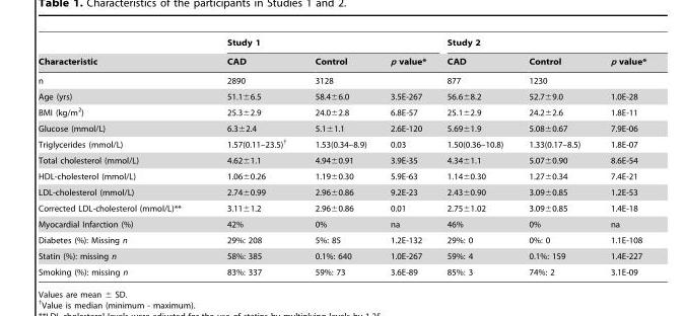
<table><thead><tr><td rowspan="2">Characteristic</td><td colspan="3">Study 1</td><td colspan="3">Study 2</td></tr><tr><td>CAD</td><td>Control</td><td>p value*</td><td>CAD</td><td>Control</td><td>p value*</td></tr></thead><tbody><tr><td>n</td><td>2890</td><td>3128</td><td></td><td>877</td><td>1230</td><td></td></tr><tr><td>Age (yrs)</td><td>51.1±6.5</td><td>58.4±6.0</td><td>3.5E-267</td><td>56.6±8.2</td><td>52.7±9.0</td><td>1.0E-28</td></tr><tr><td>BMI (kg/m<sup>2</sup>)</td><td>25.3±2.9</td><td>24.0±2.8</td><td>6.8E-57</td><td>25.1±2.9</td><td>24.2±2.6</td><td>1.8E-11</td></tr><tr><td>Glucose (mmol/L)</td><td>6.3±2.4</td><td>5.1±1.1</td><td>2.6E-120</td><td>5.69±1.9</td><td>5.08±0.67</td><td>7.9E-06</td></tr><tr><td>Triglycerides (mmol/L)</td><td>1.57(0.11–23.5)†</td><td>1.53(0.34–8.9)</td><td>0.03</td><td>1.50(0.36–10.8)</td><td>1.33(0.17–8.5)</td><td>1.8E-07</td></tr><tr><td>Total cholesterol (mmol/L)</td><td>4.62±1.1</td><td>4.94±0.91</td><td>3.9E-35</td><td>4.34±1.1</td><td>5.07±0.90</td><td>8.6E-54</td></tr><tr><td>HDL-cholesterol (mmol/L)</td><td>1.06±0.26</td><td>1.19±0.30</td><td>5.9E-63</td><td>1.14±0.30</td><td>1.27±0.34</td><td>7.4E-21</td></tr><tr><td>LDL-cholesterol (mmol/L)</td><td>2.74±0.99</td><td>2.96±0.86</td><td>9.2E-23</td><td>2.43±0.90</td><td>3.09±0.85</td><td>1.2E-53</td></tr><tr><td>Corrected LDL-cholesterol (mmol/L)**</td><td>3.11±1.2</td><td>2.96±0.86</td><td>0.01</td><td>2.75±1.02</td><td>3.09±0.85</td><td>1.4E-18</td></tr><tr><td>Myocardial Infarction (%)</td><td>42%</td><td>0%</td><td>na</td><td>46%</td><td>0%</td><td>na</td></tr><tr><td>Diabetes (%): Missing n</td><td>29%: 208</td><td>5%: 85</td><td>1.2E-132</td><td>29%: 0</td><td>0%: 0</td><td>1.1E-108</td></tr><tr><td>Statin (%): missing n</td><td>58%: 385</td><td>0.1%: 640</td><td>1.0E-267</td><td>59%: 4</td><td>0.1%: 159</td><td>1.4E-227</td></tr><tr><td>Smoking (%): missing n</td><td>83%: 337</td><td>59%: 73</td><td>3.6E-89</td><td>85%: 3</td><td>74%: 2</td><td>3.1E-09</td></tr></tbody></table>